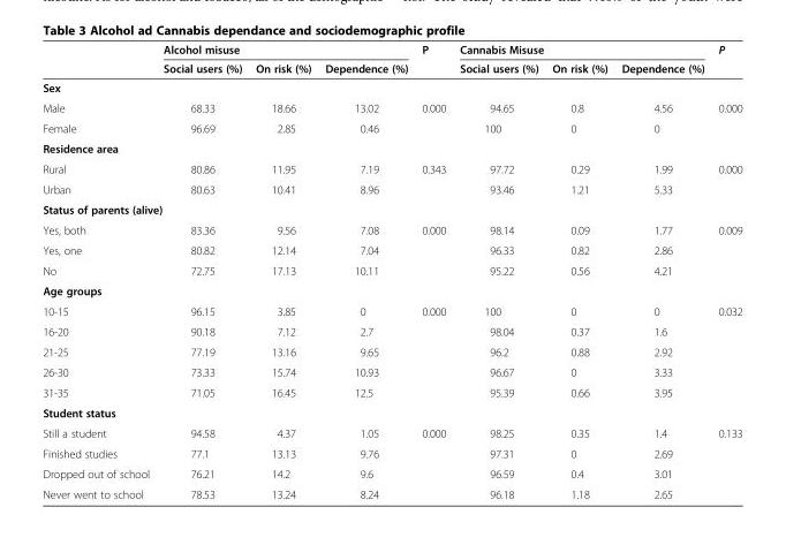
<table><thead><tr><td rowspan="2"></td><td colspan="3">Alcohol misuse</td><td rowspan="2">P</td><td colspan="3">Cannabis Misuse</td><td rowspan="2">P</td></tr><tr><td>Social users (%)</td><td>On risk (%)</td><td>Dependence (%)</td><td>Social users (%)</td><td>On risk (%)</td><td>Dependence (%)</td></tr></thead><tbody><tr><td colspan="9">Sex</td></tr><tr><td>Male</td><td>68.33</td><td>18.66</td><td>13.02</td><td rowspan="2">0.000</td><td>94.65</td><td>0.8</td><td>4.56</td><td rowspan="2">0.000</td></tr><tr><td>Female</td><td>96.69</td><td>2.85</td><td>0.46</td><td>100</td><td>0</td><td>0</td></tr><tr><td colspan="9">Residence area</td></tr><tr><td>Rural</td><td>80.86</td><td>11.95</td><td>7.19</td><td rowspan="2">0.343</td><td>97.72</td><td>0.29</td><td>1.99</td><td rowspan="2">0.000</td></tr><tr><td>Urban</td><td>80.63</td><td>10.41</td><td>8.96</td><td>93.46</td><td>1.21</td><td>5.33</td></tr><tr><td colspan="9">Status of parents (alive)</td></tr><tr><td>Yes, both</td><td>83.36</td><td>9.56</td><td>7.08</td><td rowspan="3">0.000</td><td>98.14</td><td>0.09</td><td>1.77</td><td rowspan="3">0.009</td></tr><tr><td>Yes, one</td><td>80.82</td><td>12.14</td><td>7.04</td><td>96.33</td><td>0.82</td><td>2.86</td></tr><tr><td>No</td><td>72.75</td><td>17.13</td><td>10.11</td><td>95.22</td><td>0.56</td><td>4.21</td></tr><tr><td colspan="9">Age groups</td></tr><tr><td>10-15</td><td>96.15</td><td>3.85</td><td>0</td><td rowspan="5">0.000</td><td>100</td><td>0</td><td>0</td><td rowspan="5">0.032</td></tr><tr><td>16-20</td><td>90.18</td><td>7.12</td><td>2.7</td><td>98.04</td><td>0.37</td><td>1.6</td></tr><tr><td>21-25</td><td>77.19</td><td>13.16</td><td>9.65</td><td>96.2</td><td>0.88</td><td>2.92</td></tr><tr><td>26-30</td><td>73.33</td><td>15.74</td><td>10.93</td><td>96.67</td><td>0</td><td>3.33</td></tr><tr><td>31-35</td><td>71.05</td><td>16.45</td><td>12.5</td><td>95.39</td><td>0.66</td><td>3.95</td></tr><tr><td colspan="9">Student status</td></tr><tr><td>Still a student</td><td>94.58</td><td>4.37</td><td>1.05</td><td rowspan="4">0.000</td><td>98.25</td><td>0.35</td><td>1.4</td><td rowspan="4">0.133</td></tr><tr><td>Finished studies</td><td>77.1</td><td>13.13</td><td>9.76</td><td>97.31</td><td>0</td><td>2.69</td></tr><tr><td>Dropped out of school</td><td>76.21</td><td>14.2</td><td>9.6</td><td>96.59</td><td>0.4</td><td>3.01</td></tr><tr><td>Never went to school</td><td>78.53</td><td>13.24</td><td>8.24</td><td>96.18</td><td>1.18</td><td>2.65</td></tr></tbody></table>